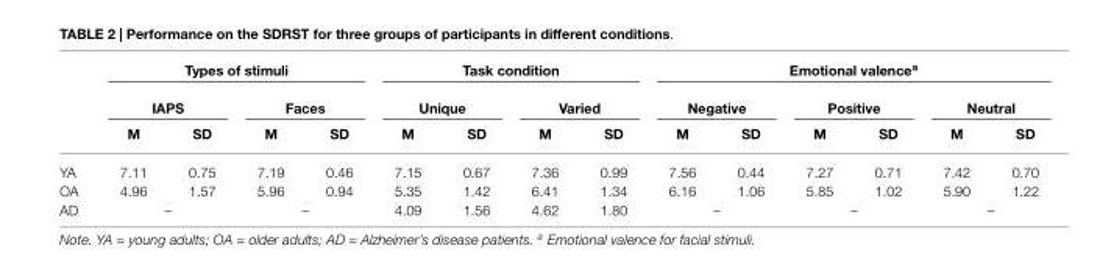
<table><thead><tr><td rowspan="3"></td><td colspan="4">Types of stimuli</td><td colspan="4">Task condition</td><td colspan="6">Emotional valence<sup>a</sup></td></tr><tr><td colspan="2">IAPS</td><td colspan="2">Faces</td><td colspan="2">Unique</td><td colspan="2">Varied</td><td colspan="2">Negative</td><td colspan="2">Positive</td><td colspan="2">Neutral</td></tr><tr><td>M</td><td>SD</td><td>M</td><td>SD</td><td>M</td><td>SD</td><td>M</td><td>SD</td><td>M</td><td>SD</td><td>M</td><td>SD</td><td>M</td><td>SD</td></tr></thead><tbody><tr><td>YA</td><td>7.11</td><td>0.75</td><td>7.19</td><td>0.46</td><td>7.15</td><td>0.67</td><td>7.36</td><td>0.99</td><td>7.56</td><td>0.44</td><td>7.27</td><td>0.71</td><td>7.42</td><td>0.70</td></tr><tr><td>OA</td><td>4.96</td><td>1.57</td><td>5.96</td><td>0.94</td><td>5.35</td><td>1.42</td><td>6.41</td><td>1.34</td><td>6.16</td><td>1.06</td><td>5.85</td><td>1.02</td><td>5.90</td><td>1.22</td></tr><tr><td>AD</td><td colspan="2">–</td><td colspan="2">–</td><td>4.09</td><td>1.56</td><td>4.62</td><td>1.80</td><td colspan="2">–</td><td colspan="2">–</td><td colspan="2">–</td></tr></tbody></table>